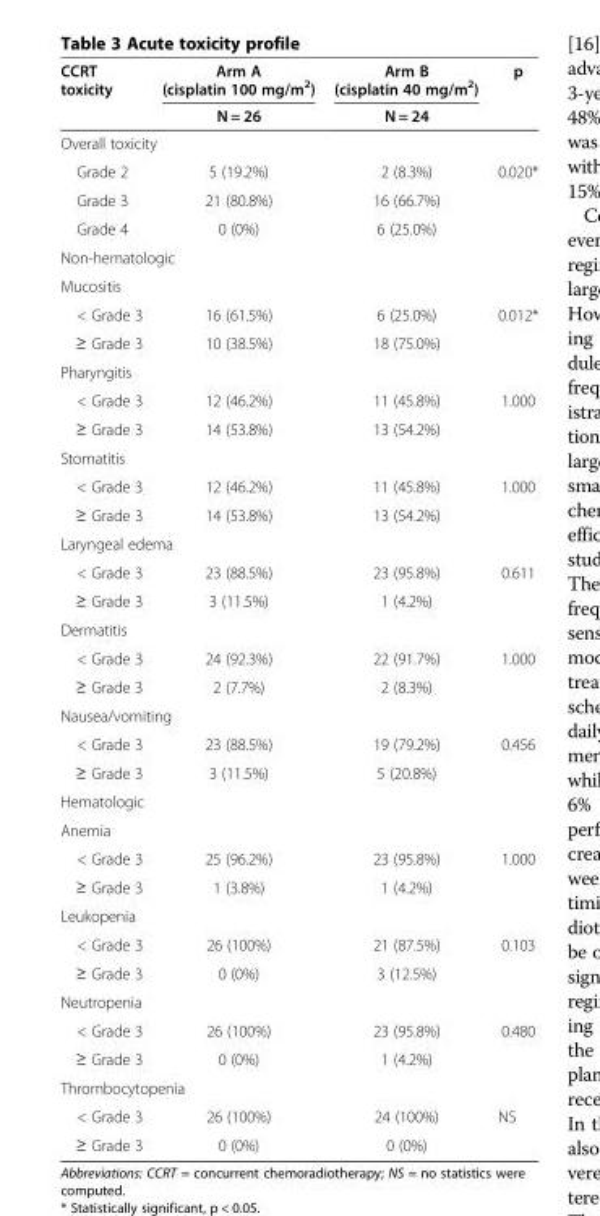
<table><thead><tr><td rowspan="2">CCRT toxicity</td><td rowspan="2">Arm A (cisplatin 100 mg/m<sup>2</sup>) N = 26</td><td rowspan="2">Arm B (cisplatin 40 mg/m<sup>2</sup>) N = 24</td><td rowspan="2">p</td></tr><tr></tr></thead><tbody><tr><td colspan="4">Overall toxicity</td></tr><tr><td>Grade 2</td><td>5 (19.2%)</td><td>2 (8.3%)</td><td rowspan="3">0.020*</td></tr><tr><td>Grade 3</td><td>21 (80.8%)</td><td>16 (66.7%)</td></tr><tr><td>Grade 4</td><td>0 (0%)</td><td>6 (25.0%)</td></tr><tr><td colspan="4">Non-hematologic</td></tr><tr><td colspan="4">Mucositis</td></tr><tr><td>&lt; Grade 3</td><td>16 (61.5%)</td><td>6 (25.0%)</td><td rowspan="2">0.012*</td></tr><tr><td>≥ Grade 3</td><td>10 (38.5%)</td><td>18 (75.0%)</td></tr><tr><td colspan="4">Pharyngitis</td></tr><tr><td>&lt; Grade 3</td><td>12 (46.2%)</td><td>11 (45.8%)</td><td rowspan="2">1.000</td></tr><tr><td>≥ Grade 3</td><td>14 (53.8%)</td><td>13 (54.2%)</td></tr><tr><td colspan="4">Stomatitis</td></tr><tr><td>&lt; Grade 3</td><td>12 (46.2%)</td><td>11 (45.8%)</td><td rowspan="2">1.000</td></tr><tr><td>≥ Grade 3</td><td>14 (53.8%)</td><td>13 (54.2%)</td></tr><tr><td colspan="4">Laryngeal edema</td></tr><tr><td>&lt; Grade 3</td><td>23 (88.5%)</td><td>23 (95.8%)</td><td rowspan="2">0.611</td></tr><tr><td>≥ Grade 3</td><td>3 (11.5%)</td><td>1 (4.2%)</td></tr><tr><td colspan="4">Dermatitis</td></tr><tr><td>&lt; Grade 3</td><td>24 (92.3%)</td><td>22 (91.7%)</td><td rowspan="2">1.000</td></tr><tr><td>≥ Grade 3</td><td>2 (7.7%)</td><td>2 (8.3%)</td></tr><tr><td colspan="4">Nausea/vomiting</td></tr><tr><td>&lt; Grade 3</td><td>23 (88.5%)</td><td>19 (79.2%)</td><td rowspan="2">0.456</td></tr><tr><td>≥ Grade 3</td><td>3 (11.5%)</td><td>5 (20.8%)</td></tr><tr><td colspan="4">Hematologic</td></tr><tr><td colspan="4">Anemia</td></tr><tr><td>&lt; Grade 3</td><td>25 (96.2%)</td><td>23 (95.8%)</td><td rowspan="2">1.000</td></tr><tr><td>≥ Grade 3</td><td>1 (3.8%)</td><td>1 (4.2%)</td></tr><tr><td colspan="4">Leukopenia</td></tr><tr><td>&lt; Grade 3</td><td>26 (100%)</td><td>21 (87.5%)</td><td rowspan="2">0.103</td></tr><tr><td>≥ Grade 3</td><td>0 (0%)</td><td>3 (12.5%)</td></tr><tr><td colspan="4">Neutropenia</td></tr><tr><td>&lt; Grade 3</td><td>26 (100%)</td><td>23 (95.8%)</td><td rowspan="2">0.480</td></tr><tr><td>≥ Grade 3</td><td>0 (0%)</td><td>1 (4.2%)</td></tr><tr><td colspan="4">Thrombocytopenia</td></tr><tr><td>&lt; Grade 3</td><td>26 (100%)</td><td>24 (100%)</td><td rowspan="2">NS</td></tr><tr><td>≥ Grade 3</td><td>0 (0%)</td><td>0 (0%)</td></tr></tbody></table>